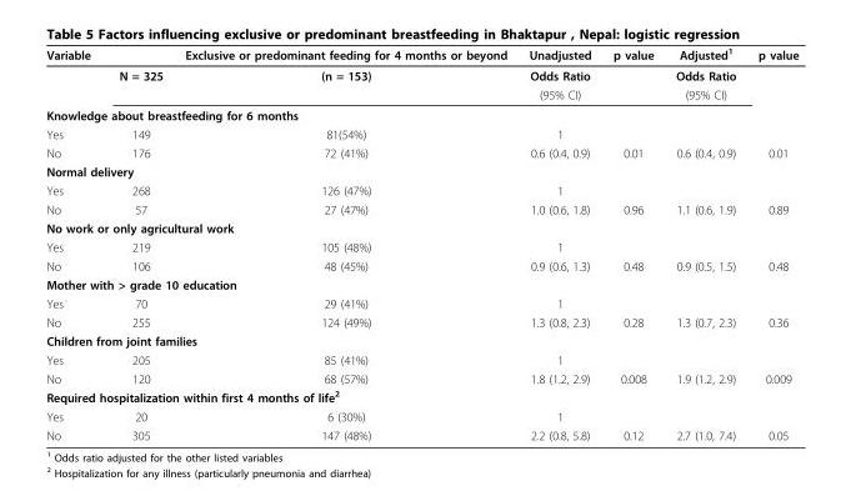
<table><thead><tr><td>Variable</td><td></td><td>Exclusive or predominant feeding for 4 months or beyond</td><td>Unadjusted</td><td>p value</td><td>Adjusted<sup>1</sup></td><td>p value</td></tr></thead><tbody><tr><td></td><td>N = 325</td><td>(n = 153)</td><td>Odds Ratio</td><td></td><td>Odds Ratio</td><td></td></tr><tr><td></td><td></td><td></td><td>(95% CI)</td><td></td><td>(95% CI)</td><td></td></tr><tr><td colspan="7">Knowledge about breastfeeding for 6 months</td></tr><tr><td>Yes</td><td>149</td><td>81(54%)</td><td>1</td><td></td><td></td><td></td></tr><tr><td>No</td><td>176</td><td>72 (41%)</td><td>0.6 (0.4, 0.9)</td><td>0.01</td><td>0.6 (0.4, 0.9)</td><td>0.01</td></tr><tr><td colspan="7">Normal delivery</td></tr><tr><td>Yes</td><td>268</td><td>126 (47%)</td><td>1</td><td></td><td></td><td></td></tr><tr><td>No</td><td>57</td><td>27 (47%)</td><td>1.0 (0.6, 1.8)</td><td>0.96</td><td>1.1 (0.6, 1.9)</td><td>0.89</td></tr><tr><td colspan="7">No work or only agricultural work</td></tr><tr><td>Yes</td><td>219</td><td>105 (48%)</td><td>1</td><td></td><td></td><td></td></tr><tr><td>No</td><td>106</td><td>48 (45%)</td><td>0.9 (0.6, 1.3)</td><td>0.48</td><td>0.9 (0.5, 1.5)</td><td>0.48</td></tr><tr><td colspan="7">Mother with &gt; grade 10 education</td></tr><tr><td>Yes</td><td>70</td><td>29 (41%)</td><td>1</td><td></td><td></td><td></td></tr><tr><td>No</td><td>255</td><td>124 (49%)</td><td>1.3 (0.8, 2.3)</td><td>0.28</td><td>1.3 (0.7, 2.3)</td><td>0.36</td></tr><tr><td colspan="7">Children from joint families</td></tr><tr><td>Yes</td><td>205</td><td>85 (41%)</td><td>1</td><td></td><td></td><td></td></tr><tr><td>No</td><td>120</td><td>68 (57%)</td><td>1.8 (1.2, 2.9)</td><td>0.008</td><td>1.9 (1.2, 2.9)</td><td>0.009</td></tr><tr><td colspan="7">Required hospitalization within first 4 months of life<sup>2</sup></td></tr><tr><td>Yes</td><td>20</td><td>6 (30%)</td><td>1</td><td></td><td></td><td></td></tr><tr><td>No</td><td>305</td><td>147 (48%)</td><td>2.2 (0.8, 5.8)</td><td>0.12</td><td>2.7 (1.0, 7.4)</td><td>0.05</td></tr></tbody></table>